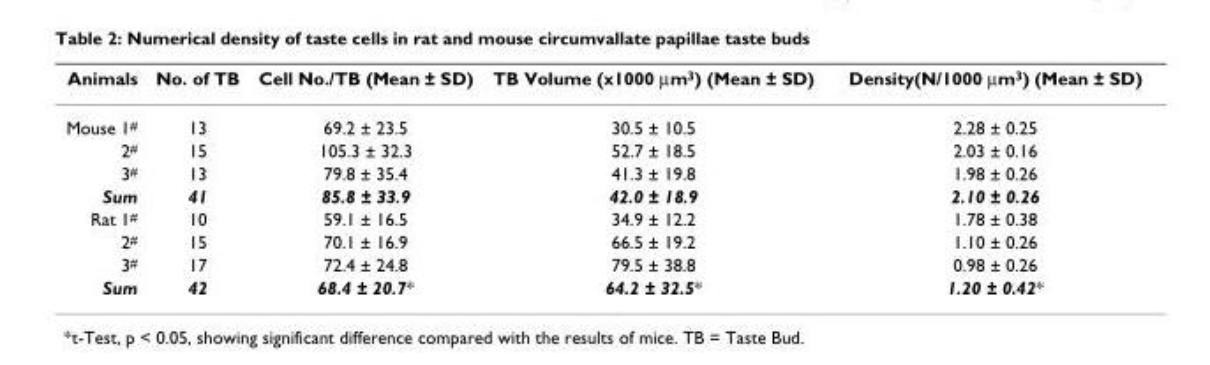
<table><thead><tr><td>Animals</td><td>No. of TB</td><td>Cell No./TB (Mean ± SD)</td><td>TB Volume (x1000 μm<sup>3</sup>) (Mean ± SD)</td><td>Density(N/1000 μm<sup>3</sup>) (Mean ± SD)</td></tr></thead><tbody><tr><td>Mouse 1<sup>#</sup></td><td>13</td><td>69.2 ± 23.5</td><td>30.5 ± 10.5</td><td>2.28 ± 0.25</td></tr><tr><td>2<sup>#</sup></td><td>15</td><td>105.3 ± 32.3</td><td>52.7 ± 18.5</td><td>2.03 ± 0.16</td></tr><tr><td>3<sup>#</sup></td><td>13</td><td>79.8 ± 35.4</td><td>41.3 ± 19.8</td><td>1.98 ± 0.26</td></tr><tr><td>Sum</td><td>41</td><td>85.8 ± 33.9</td><td>42.0 ± 18.9</td><td>2.10 ± 0.26</td></tr><tr><td>Rat 1<sup>#</sup></td><td>10</td><td>59.1 ± 16.5</td><td>34.9 ± 12.2</td><td>1.78 ± 0.38</td></tr><tr><td>2<sup>#</sup></td><td>15</td><td>70.1 ± 16.9</td><td>66.5 ± 19.2</td><td>1.10 ± 0.26</td></tr><tr><td>3<sup>#</sup></td><td>17</td><td>72.4 ± 24.8</td><td>79.5 ± 38.8</td><td>0.98 ± 0.26</td></tr><tr><td>Sum</td><td>42</td><td>68.4 ± 20.7*</td><td>64.2 ± 32.5*</td><td>1.20 ± 0.42*</td></tr></tbody></table>